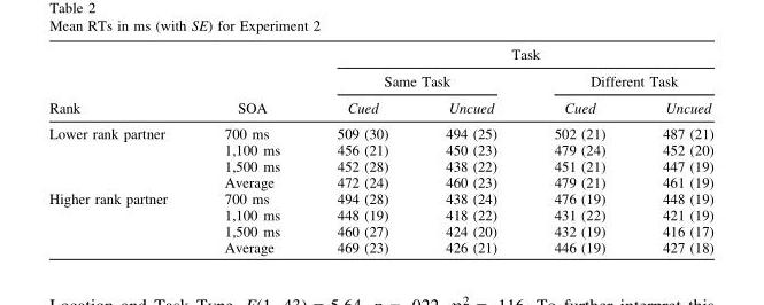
<table><thead><tr><td rowspan="3">Rank</td><td rowspan="3">SOA</td><td colspan="4">Task</td></tr><tr><td colspan="2">Same Task</td><td colspan="2">Different Task</td></tr><tr><td>Cued</td><td>Uncued</td><td>Cued</td><td>Uncued</td></tr></thead><tbody><tr><td rowspan="4">Lower rank partner</td><td>700 ms</td><td>509 (30)</td><td>494 (25)</td><td>502 (21)</td><td>487 (21)</td></tr><tr><td>1,100 ms</td><td>456 (21)</td><td>450 (23)</td><td>479 (24)</td><td>452 (20)</td></tr><tr><td>1,500 ms</td><td>452 (28)</td><td>438 (22)</td><td>451 (21)</td><td>447 (19)</td></tr><tr><td>Average</td><td>472 (24)</td><td>460 (23)</td><td>479 (21)</td><td>461 (19)</td></tr><tr><td rowspan="4">Higher rank partner</td><td>700 ms</td><td>494 (28)</td><td>438 (24)</td><td>476 (19)</td><td>448 (19)</td></tr><tr><td>1,100 ms</td><td>448 (19)</td><td>418 (22)</td><td>431 (22)</td><td>421 (19)</td></tr><tr><td>1,500 ms</td><td>460 (27)</td><td>424 (20)</td><td>432 (19)</td><td>416 (17)</td></tr><tr><td>Average</td><td>469 (23)</td><td>426 (21)</td><td>446 (19)</td><td>427 (18)</td></tr></tbody></table>